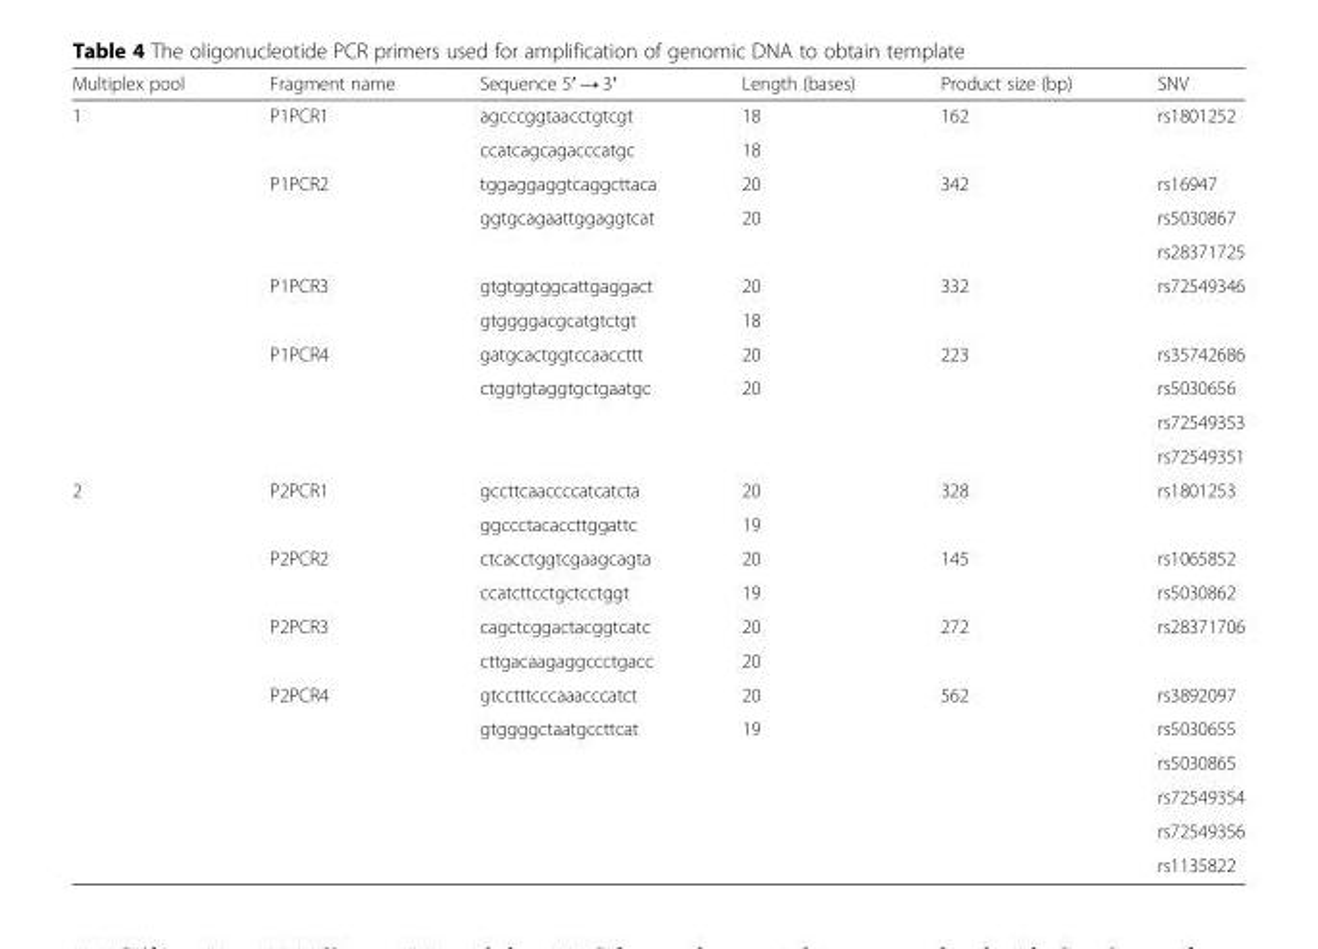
<table><thead><tr><td>Multiplex pool</td><td>Fragment name</td><td>Sequence 5′ → 3′</td><td>Length (bases)</td><td>Product size (bp)</td><td>SNV</td></tr></thead><tbody><tr><td rowspan="11">1</td><td rowspan="2">P1PCR1</td><td>agcccggtaacctgtcgt</td><td>18</td><td>162</td><td>rs1801252</td></tr><tr><td>ccatcagcagacccatgc</td><td>18</td><td></td><td></td></tr><tr><td rowspan="3">P1PCR2</td><td>tggaggaggtcaggcttaca</td><td>20</td><td>342</td><td>rs16947</td></tr><tr><td>ggtgcagaattggaggtcat</td><td>20</td><td></td><td>rs5030867</td></tr><tr><td></td><td></td><td></td><td>rs28371725</td></tr><tr><td rowspan="2">P1PCR3</td><td>gtgtggtggcattgaggact</td><td>20</td><td>332</td><td>rs72549346</td></tr><tr><td>gtggggacgcatgtctgt</td><td>18</td><td></td><td></td></tr><tr><td rowspan="4">P1PCR4</td><td>gatgcactggtccaaccttt</td><td>20</td><td>223</td><td>rs35742686</td></tr><tr><td>ctggtgtaggtgctgaatgc</td><td>20</td><td></td><td>rs5030656</td></tr><tr><td></td><td></td><td></td><td>rs72549353</td></tr><tr><td></td><td></td><td></td><td>rs72549351</td></tr><tr><td rowspan="12">2</td><td rowspan="2">P2PCR1</td><td>gccttcaaccccatcatcta</td><td>20</td><td>328</td><td>rs1801253</td></tr><tr><td>ggccctacaccttggattc</td><td>19</td><td></td><td></td></tr><tr><td rowspan="2">P2PCR2</td><td>ctcacctggtcgaagcagta</td><td>20</td><td>145</td><td>rs1065852</td></tr><tr><td>ccatcttcctgctcctggt</td><td>19</td><td></td><td>rs5030862</td></tr><tr><td rowspan="2">P2PCR3</td><td>cagctcggactacggtcatc</td><td>20</td><td>272</td><td>rs28371706</td></tr><tr><td>cttgacaagaggccctgacc</td><td>20</td><td></td><td></td></tr><tr><td rowspan="6">P2PCR4</td><td>gtcctttcccaaacccatct</td><td>20</td><td>562</td><td>rs3892097</td></tr><tr><td>gtggggctaatgccttcat</td><td>19</td><td></td><td>rs5030655</td></tr><tr><td></td><td></td><td></td><td>rs5030865</td></tr><tr><td></td><td></td><td></td><td>rs72549354</td></tr><tr><td></td><td></td><td></td><td>rs72549356</td></tr><tr><td></td><td></td><td></td><td>rs1135822</td></tr></tbody></table>